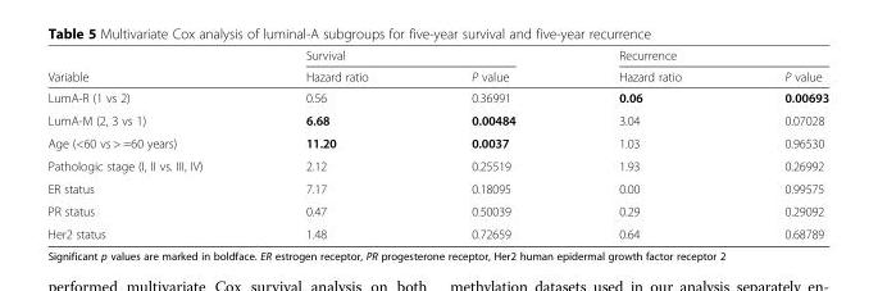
<table><thead><tr><td rowspan="2">Variable</td><td colspan="2">Survival</td><td colspan="2">Recurrence</td></tr><tr><td>Hazard ratio</td><td>P value</td><td>Hazard ratio</td><td>P value</td></tr></thead><tbody><tr><td>LumA-R (1 vs 2)</td><td>0.56</td><td>0.36991</td><td>0.06</td><td>0.00693</td></tr><tr><td>LumA-M (2, 3 vs 1)</td><td>6.68</td><td>0.00484</td><td>3.04</td><td>0.07028</td></tr><tr><td>Age (&lt;60 vs &gt; =60 years)</td><td>11.20</td><td>0.0037</td><td>1.03</td><td>0.96530</td></tr><tr><td>Pathologic stage (I, II vs. III, IV)</td><td>2.12</td><td>0.25519</td><td>1.93</td><td>0.26992</td></tr><tr><td>ER status</td><td>7.17</td><td>0.18095</td><td>0.00</td><td>0.99575</td></tr><tr><td>PR status</td><td>0.47</td><td>0.50039</td><td>0.29</td><td>0.29092</td></tr><tr><td>Her2 status</td><td>1.48</td><td>0.72659</td><td>0.64</td><td>0.68789</td></tr></tbody></table>